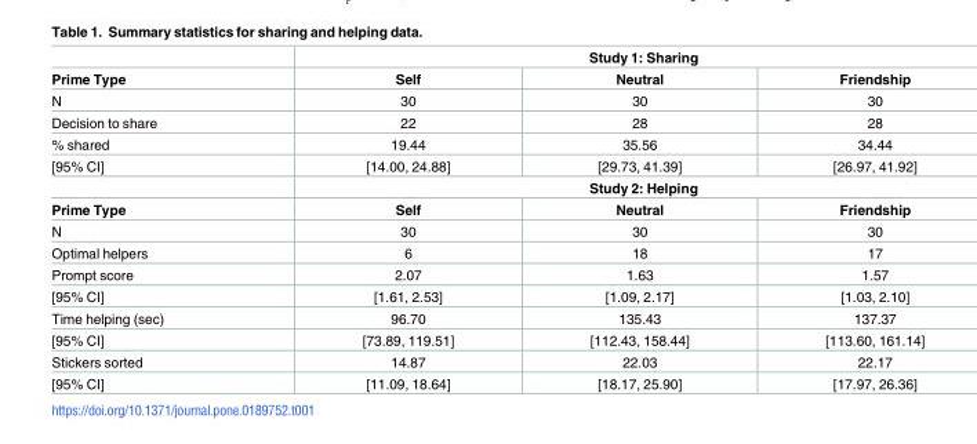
<table><thead><tr><td rowspan="2">Prime Type</td><td colspan="3">Study 1: Sharing</td></tr><tr><td>Self</td><td>Neutral</td><td>Friendship</td></tr></thead><tbody><tr><td>N</td><td>30</td><td>30</td><td>30</td></tr><tr><td>Decision to share</td><td>22</td><td>28</td><td>28</td></tr><tr><td>% shared</td><td>19.44</td><td>35.56</td><td>34.44</td></tr><tr><td rowspan="2">[95% CI]</td><td>[14.00, 24.88]</td><td>[29.73, 41.39]</td><td>[26.97, 41.92]</td></tr><tr><td colspan="3">Study 2: Helping</td></tr><tr><td>Prime Type</td><td>Self</td><td>Neutral</td><td>Friendship</td></tr><tr><td>N</td><td>30</td><td>30</td><td>30</td></tr><tr><td>Optimal helpers</td><td>6</td><td>18</td><td>17</td></tr><tr><td>Prompt score</td><td>2.07</td><td>1.63</td><td>1.57</td></tr><tr><td>[95% CI]</td><td>[1.61, 2.53]</td><td>[1.09, 2.17]</td><td>[1.03, 2.10]</td></tr><tr><td>Time helping (sec)</td><td>96.70</td><td>135.43</td><td>137.37</td></tr><tr><td>[95% CI]</td><td>[73.89, 119.51]</td><td>[112.43, 158.44]</td><td>[113.60, 161.14]</td></tr><tr><td>Stickers sorted</td><td>14.87</td><td>22.03</td><td>22.17</td></tr><tr><td>[95% CI]</td><td>[11.09, 18.64]</td><td>[18.17, 25.90]</td><td>[17.97, 26.36]</td></tr></tbody></table>